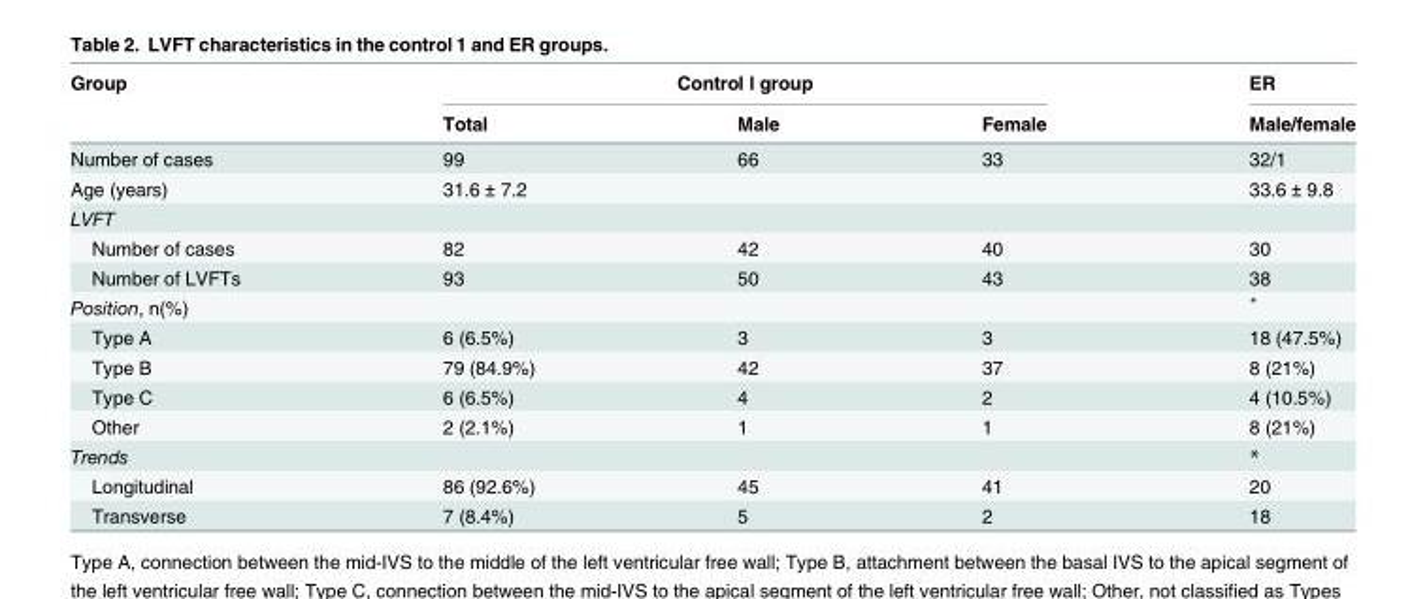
<table><thead><tr><td rowspan="2">Group</td><td colspan="3">Control l group</td><td rowspan="2">ER Male/female</td></tr><tr><td>Total</td><td>Male</td><td>Female</td></tr></thead><tbody><tr><td>Number of cases</td><td>99</td><td>66</td><td>33</td><td>32/1</td></tr><tr><td>Age (years)</td><td>31.6 ± 7.2</td><td></td><td></td><td>33.6 ± 9.8</td></tr><tr><td colspan="5">LVFT</td></tr><tr><td>Number of cases</td><td>82</td><td>42</td><td>40</td><td>30</td></tr><tr><td>Number of LVFTs</td><td>93</td><td>50</td><td>43</td><td>38</td></tr><tr><td>Position, n(%)</td><td></td><td></td><td></td><td>*</td></tr><tr><td>Type A</td><td>6 (6.5%)</td><td>3</td><td>3</td><td>18 (47.5%)</td></tr><tr><td>Type B</td><td>79 (84.9%)</td><td>42</td><td>37</td><td>8 (21%)</td></tr><tr><td>Type C</td><td>6 (6.5%)</td><td>4</td><td>2</td><td>4 (10.5%)</td></tr><tr><td>Other</td><td>2 (2.1%)</td><td>1</td><td>1</td><td>8 (21%)</td></tr><tr><td>Trends</td><td></td><td></td><td></td><td>*</td></tr><tr><td>Longitudinal</td><td>86 (92.6%)</td><td>45</td><td>41</td><td>20</td></tr><tr><td>Transverse</td><td>7 (8.4%)</td><td>5</td><td>2</td><td>18</td></tr></tbody></table>